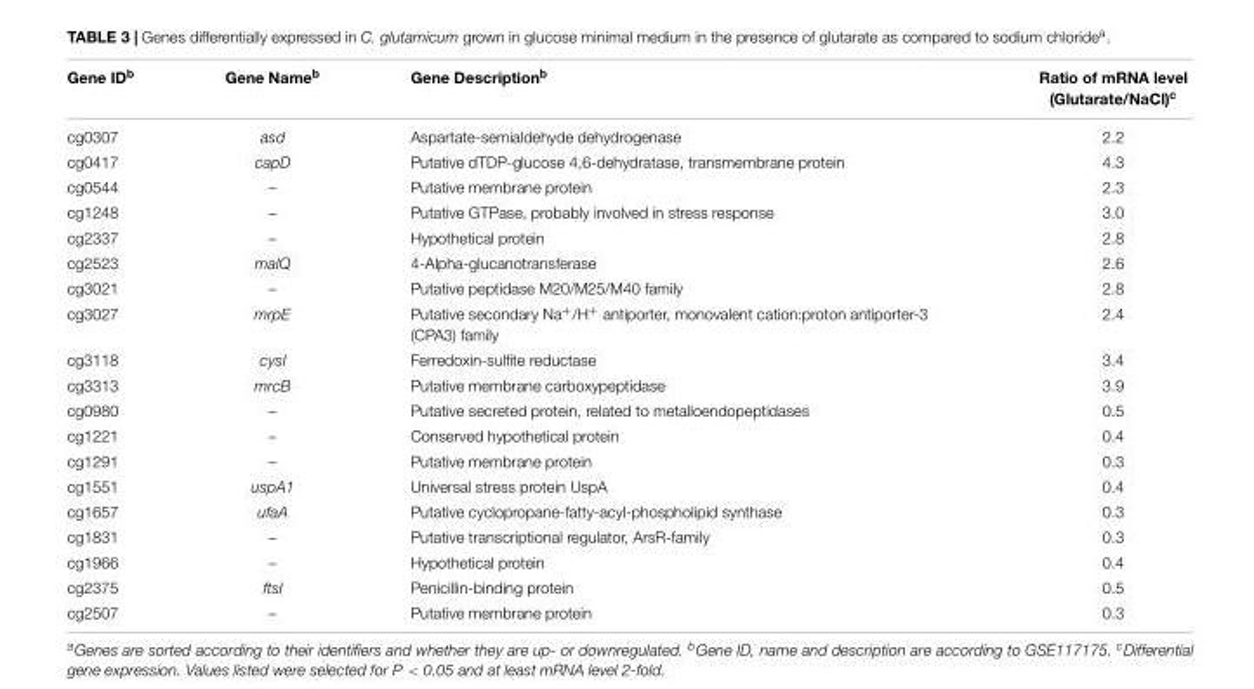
<table><thead><tr><td>Gene ID<sup>b</sup></td><td>Gene Name<sup>b</sup></td><td>Gene Description<sup>b</sup></td><td>Ratio of mRNA level (Glutarate/NaCl)<sup>c</sup></td></tr></thead><tbody><tr><td>cg0307</td><td>asd</td><td>Aspartate-semialdehyde dehydrogenase</td><td>2.2</td></tr><tr><td>cg0417</td><td>capD</td><td>Putative dTDP-glucose 4,6-dehydratase, transmembrane protein</td><td>4.3</td></tr><tr><td>cg0544</td><td>–</td><td>Putative membrane protein</td><td>2.3</td></tr><tr><td>cg1248</td><td>–</td><td>Putative GTPase, probably involved in stress response</td><td>3.0</td></tr><tr><td>cg2337</td><td>–</td><td>Hypothetical protein</td><td>2.8</td></tr><tr><td>cg2523</td><td>malQ</td><td>4-Alpha-glucanotransferase</td><td>2.6</td></tr><tr><td>cg3021</td><td>–</td><td>Putative peptidase M20/M25/M40 family</td><td>2.8</td></tr><tr><td>cg3027</td><td>mrpE</td><td>Putative secondary Na<sup>+</sup>/H<sup>+</sup> antiporter, monovalent cation:proton antiporter-3 (CPA3) family</td><td>2.4</td></tr><tr><td>cg3118</td><td>cysI</td><td>Ferredoxin-sulfite reductase</td><td>3.4</td></tr><tr><td>cg3313</td><td>mrcB</td><td>Putative membrane carboxypeptidase</td><td>3.9</td></tr><tr><td>cg0980</td><td>–</td><td>Putative secreted protein, related to metalloendopeptidases</td><td>0.5</td></tr><tr><td>cg1221</td><td>–</td><td>Conserved hypothetical protein</td><td>0.4</td></tr><tr><td>cg1291</td><td>–</td><td>Putative membrane protein</td><td>0.3</td></tr><tr><td>cg1551</td><td>uspA1</td><td>Universal stress protein UspA</td><td>0.4</td></tr><tr><td>cg1657</td><td>ufaA</td><td>Putative cyclopropane-fatty-acyl-phospholipid synthase</td><td>0.3</td></tr><tr><td>cg1831</td><td>–</td><td>Putative transcriptional regulator, ArsR-family</td><td>0.3</td></tr><tr><td>cg1966</td><td>–</td><td>Hypothetical protein</td><td>0.4</td></tr><tr><td>cg2375</td><td>ftsI</td><td>Penicillin-binding protein</td><td>0.5</td></tr><tr><td>cg2507</td><td>–</td><td>Putative membrane protein</td><td>0.3</td></tr></tbody></table>